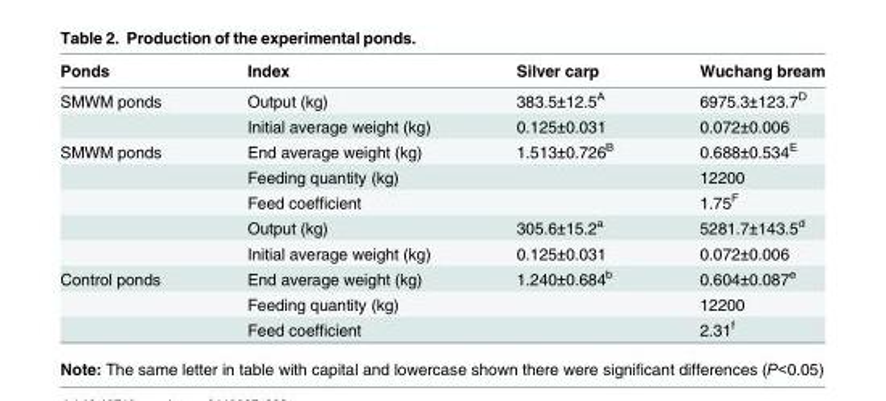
<table><thead><tr><td>Ponds</td><td>Index</td><td>Silver carp</td><td>Wuchang bream</td></tr></thead><tbody><tr><td rowspan="2">SMWM ponds</td><td>Output (kg)</td><td>383.5±12.5<sup>A</sup></td><td>6975.3±123.7<sup>D</sup></td></tr><tr><td>Initial average weight (kg)</td><td>0.125±0.031</td><td>0.072±0.006</td></tr><tr><td rowspan="5">SMWM ponds</td><td>End average weight (kg)</td><td>1.513±0.726<sup>B</sup></td><td>0.688±0.534<sup>E</sup></td></tr><tr><td>Feeding quantity (kg)</td><td></td><td>12200</td></tr><tr><td>Feed coefficient</td><td></td><td>1.75<sup>F</sup></td></tr><tr><td>Output (kg)</td><td>305.6±15.2<sup>a</sup></td><td>5281.7±143.5<sup>d</sup></td></tr><tr><td>Initial average weight (kg)</td><td>0.125±0.031</td><td>0.072±0.006</td></tr><tr><td rowspan="3">Control ponds</td><td>End average weight (kg)</td><td>1.240±0.684<sup>b</sup></td><td>0.604±0.087<sup>e</sup></td></tr><tr><td>Feeding quantity (kg)</td><td></td><td>12200</td></tr><tr><td>Feed coefficient</td><td></td><td>2.31<sup>f</sup></td></tr></tbody></table>